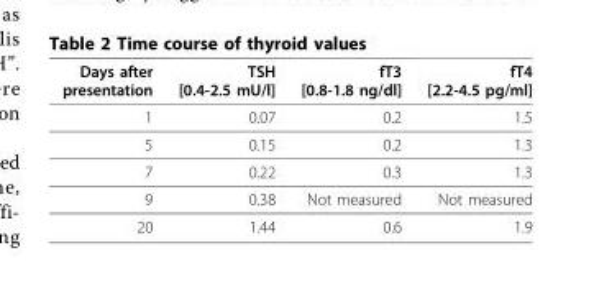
<table><thead><tr><td>Days after presentation</td><td>TSH [0.4-2.5 mU/l]</td><td>fT3 [0.8-1.8 ng/dl]</td><td>fT4 [2.2-4.5 pg/ml]</td></tr></thead><tbody><tr><td>1</td><td>0.07</td><td>0.2</td><td>1.5</td></tr><tr><td>5</td><td>0.15</td><td>0.2</td><td>1.3</td></tr><tr><td>7</td><td>0.22</td><td>0.3</td><td>1.3</td></tr><tr><td>9</td><td>0.38</td><td>Not measured</td><td>Not measured</td></tr><tr><td>20</td><td>1.44</td><td>0.6</td><td>1.9</td></tr></tbody></table>